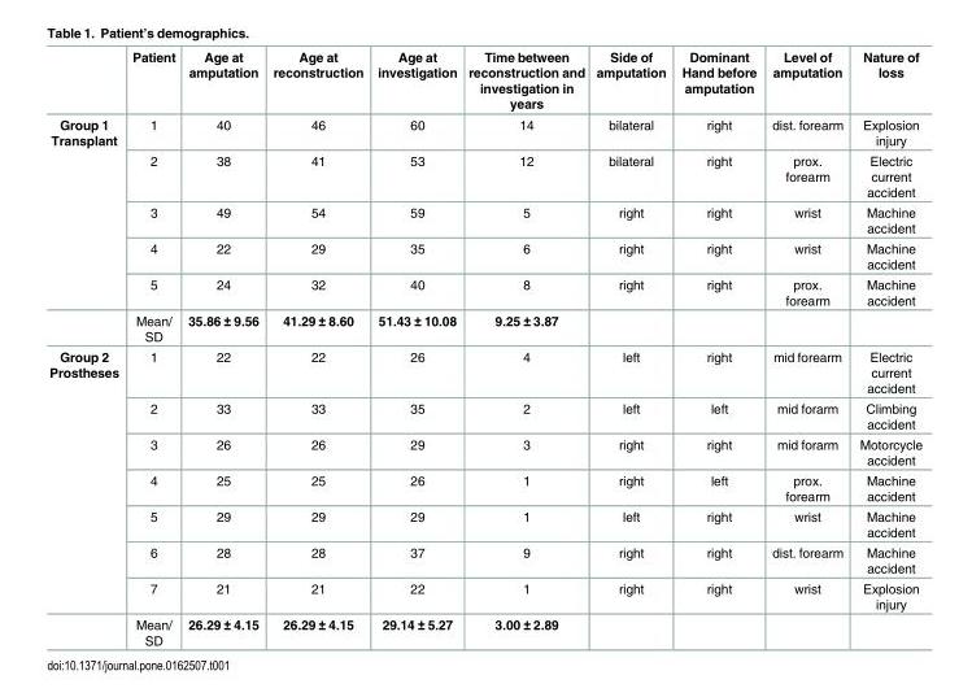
<table><thead><tr><td></td><td>Patient</td><td>Age at amputation</td><td>Age at reconstruction</td><td>Age at investigation</td><td>Time between reconstruction and investigation in years</td><td>Side of amputation</td><td>Dominant Hand before amputation</td><td>Level of amputation</td><td>Nature of loss</td></tr></thead><tbody><tr><td rowspan="6">Group 1 Transplant</td><td>1</td><td>40</td><td>46</td><td>60</td><td>14</td><td>bilateral</td><td>right</td><td>dist. forearm</td><td>Explosion injury</td></tr><tr><td>2</td><td>38</td><td>41</td><td>53</td><td>12</td><td>bilateral</td><td>right</td><td>prox. forearm</td><td>Electric current accident</td></tr><tr><td>3</td><td>49</td><td>54</td><td>59</td><td>5</td><td>right</td><td>right</td><td>wrist</td><td>Machine accident</td></tr><tr><td>4</td><td>22</td><td>29</td><td>35</td><td>6</td><td>right</td><td>right</td><td>wrist</td><td>Machine accident</td></tr><tr><td>5</td><td>24</td><td>32</td><td>40</td><td>8</td><td>right</td><td>right</td><td>prox. forearm</td><td>Machine accident</td></tr><tr><td>Mean/ SD</td><td>35.86 ± 9.56</td><td>41.29 ± 8.60</td><td>51.43 ± 10.08</td><td>9.25 ± 3.87</td><td></td><td></td><td></td><td></td></tr><tr><td rowspan="8">Group 2 Prostheses</td><td>1</td><td>22</td><td>22</td><td>26</td><td>4</td><td>left</td><td>right</td><td>mid forearm</td><td>Electric current accident</td></tr><tr><td>2</td><td>33</td><td>33</td><td>35</td><td>2</td><td>left</td><td>left</td><td>mid forarm</td><td>Climbing accident</td></tr><tr><td>3</td><td>26</td><td>26</td><td>29</td><td>3</td><td>right</td><td>right</td><td>mid forarm</td><td>Motorcycle accident</td></tr><tr><td>4</td><td>25</td><td>25</td><td>26</td><td>1</td><td>right</td><td>left</td><td>prox. forearm</td><td>Machine accident</td></tr><tr><td>5</td><td>29</td><td>29</td><td>29</td><td>1</td><td>left</td><td>right</td><td>wrist</td><td>Machine accident</td></tr><tr><td>6</td><td>28</td><td>28</td><td>37</td><td>9</td><td>right</td><td>right</td><td>dist. forearm</td><td>Machine accident</td></tr><tr><td>7</td><td>21</td><td>21</td><td>22</td><td>1</td><td>right</td><td>right</td><td>wrist</td><td>Explosion injury</td></tr><tr><td>Mean/ SD</td><td>26.29 ± 4.15</td><td>26.29 ± 4.15</td><td>29.14 ± 5.27</td><td>3.00 ± 2.89</td><td></td><td></td><td></td><td></td></tr></tbody></table>